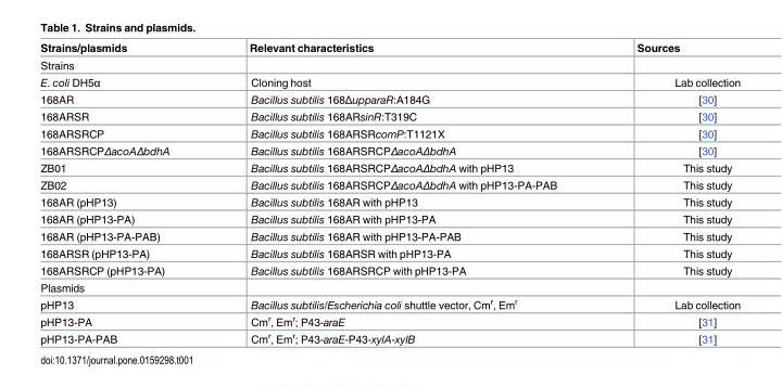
<table><thead><tr><td>Strains/plasmids</td><td>Relevant characteristics</td><td>Sources</td></tr></thead><tbody><tr><td colspan="3">Strains</td></tr><tr><td>E. coli DH5α</td><td>Cloning host</td><td>Lab collection</td></tr><tr><td>168AR</td><td>Bacillus subtilis 168ΔupparaR:A184G</td><td>[30]</td></tr><tr><td>168ARSR</td><td>Bacillus subtilis 168ARsinR:T319C</td><td>[30]</td></tr><tr><td>168ARSRCP</td><td>Bacillus subtilis 168ARSRcomP:T1121X</td><td>[30]</td></tr><tr><td>168ARSRCPΔacoAΔbdhA</td><td>Bacillus subtilis 168ARSRCPΔacoAΔbdhA</td><td>[30]</td></tr><tr><td>ZB01</td><td>Bacillus subtilis 168ARSRCPΔacoAΔbdhA with pHP13</td><td>This study</td></tr><tr><td>ZB02</td><td>Bacillus subtilis 168ARSRCPΔacoAΔbdhA with pHP13-PA-PAB</td><td>This study</td></tr><tr><td>168AR (pHP13)</td><td>Bacillus subtilis 168AR with pHP13</td><td>This study</td></tr><tr><td>168AR (pHP13-PA)</td><td>Bacillus subtilis 168AR with pHP13-PA</td><td>This study</td></tr><tr><td>168AR (pHP13-PA-PAB)</td><td>Bacillus subtilis 168AR with pHP13-PA-PAB</td><td>This study</td></tr><tr><td>168ARSR (pHP13-PA)</td><td>Bacillus subtilis 168ARSR with pHP13-PA</td><td>This study</td></tr><tr><td>168ARSRCP (pHP13-PA)</td><td>Bacillus subtilis 168ARSRCP with pHP13-PA</td><td>This study</td></tr><tr><td colspan="3">Plasmids</td></tr><tr><td>pHP13</td><td>Bacillus subtilis/Escherichia coli shuttle vector, Cm<sup>r</sup>, Em<sup>r</sup></td><td>Lab collection</td></tr><tr><td>pHP13-PA</td><td>Cm<sup>r</sup>, Em<sup>r</sup>; P43-araE</td><td>[31]</td></tr><tr><td>pHP13-PA-PAB</td><td>Cm<sup>r</sup>, Em<sup>r</sup>; P43-araE-P43-xylA-xylB</td><td>[31]</td></tr></tbody></table>